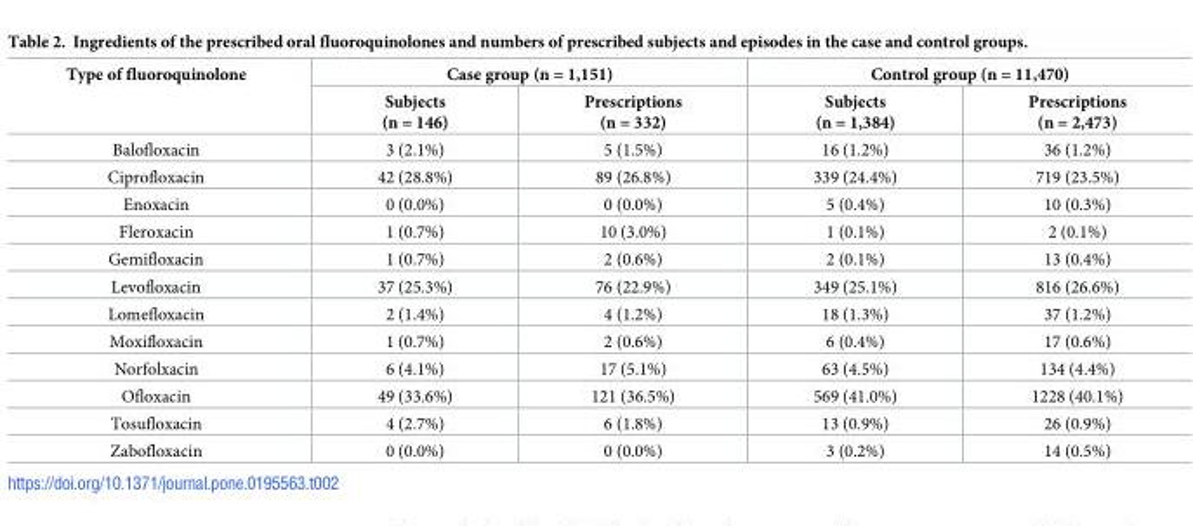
<table><thead><tr><td rowspan="2">Type of fluoroquinolone</td><td colspan="2">Case group (n = 1,151)</td><td colspan="2">Control group (n = 11,470)</td></tr><tr><td>Subjects (n = 146)</td><td>Prescriptions (n = 332)</td><td>Subjects (n = 1,384)</td><td>Prescriptions (n = 2,473)</td></tr></thead><tbody><tr><td>Balofloxacin</td><td>3 (2.1%)</td><td>5 (1.5%)</td><td>16 (1.2%)</td><td>36 (1.2%)</td></tr><tr><td>Ciprofloxacin</td><td>42 (28.8%)</td><td>89 (26.8%)</td><td>339 (24.4%)</td><td>719 (23.5%)</td></tr><tr><td>Enoxacin</td><td>0 (0.0%)</td><td>0 (0.0%)</td><td>5 (0.4%)</td><td>10 (0.3%)</td></tr><tr><td>Fleroxacin</td><td>1 (0.7%)</td><td>10 (3.0%)</td><td>1 (0.1%)</td><td>2 (0.1%)</td></tr><tr><td>Gemifloxacin</td><td>1 (0.7%)</td><td>2 (0.6%)</td><td>2 (0.1%)</td><td>13 (0.4%)</td></tr><tr><td>Levofloxacin</td><td>37 (25.3%)</td><td>76 (22.9%)</td><td>349 (25.1%)</td><td>816 (26.6%)</td></tr><tr><td>Lomefloxacin</td><td>2 (1.4%)</td><td>4 (1.2%)</td><td>18 (1.3%)</td><td>37 (1.2%)</td></tr><tr><td>Moxifloxacin</td><td>1 (0.7%)</td><td>2 (0.6%)</td><td>6 (0.4%)</td><td>17 (0.6%)</td></tr><tr><td>Norfolxacin</td><td>6 (4.1%)</td><td>17 (5.1%)</td><td>63 (4.5%)</td><td>134 (4.4%)</td></tr><tr><td>Ofloxacin</td><td>49 (33.6%)</td><td>121 (36.5%)</td><td>569 (41.0%)</td><td>1228 (40.1%)</td></tr><tr><td>Tosufloxacin</td><td>4 (2.7%)</td><td>6 (1.8%)</td><td>13 (0.9%)</td><td>26 (0.9%)</td></tr><tr><td>Zabofloxacin</td><td>0 (0.0%)</td><td>0 (0.0%)</td><td>3 (0.2%)</td><td>14 (0.5%)</td></tr></tbody></table>